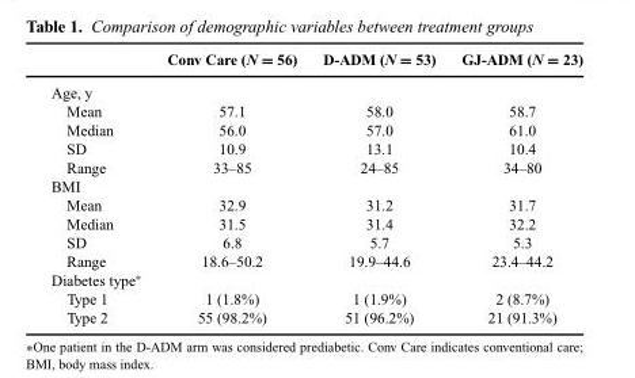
<table><thead><tr><td></td><td>Conv Care (N = 56)</td><td>D-ADM (N = 53)</td><td>GJ-ADM (N = 23)</td></tr></thead><tbody><tr><td colspan="4">Age, y</td></tr><tr><td>Mean</td><td>57.1</td><td>58.0</td><td>58.7</td></tr><tr><td>Median</td><td>56.0</td><td>57.0</td><td>61.0</td></tr><tr><td>SD</td><td>10.9</td><td>13.1</td><td>10.4</td></tr><tr><td>Range</td><td>33–85</td><td>24–85</td><td>34–80</td></tr><tr><td colspan="4">BMI</td></tr><tr><td>Mean</td><td>32.9</td><td>31.2</td><td>31.7</td></tr><tr><td>Median</td><td>31.5</td><td>31.4</td><td>32.2</td></tr><tr><td>SD</td><td>6.8</td><td>5.7</td><td>5.3</td></tr><tr><td>Range</td><td>18.6–50.2</td><td>19.9–44.6</td><td>23.4–44.2</td></tr><tr><td colspan="4">Diabetes type∗</td></tr><tr><td>Type 1</td><td>1 (1.8%)</td><td>1 (1.9%)</td><td>2 (8.7%)</td></tr><tr><td>Type 2</td><td>55 (98.2%)</td><td>51 (96.2%)</td><td>21 (91.3%)</td></tr></tbody></table>